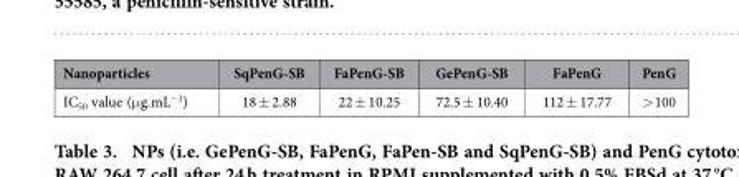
<table><thead><tr><td>Nanoparticles</td><td>SqPenG-SB</td><td>FaPenG-SB</td><td>GePenG-SB</td><td>FaPenG</td><td>PenG</td></tr></thead><tbody><tr><td>IC<sub>50</sub> value (μ g.mL<sup>−1</sup>)</td><td>18 ± 2.88</td><td>22 ± 10.25</td><td>72.5 ± 10.40</td><td>112 ± 17.77</td><td>&gt; 100</td></tr></tbody></table>